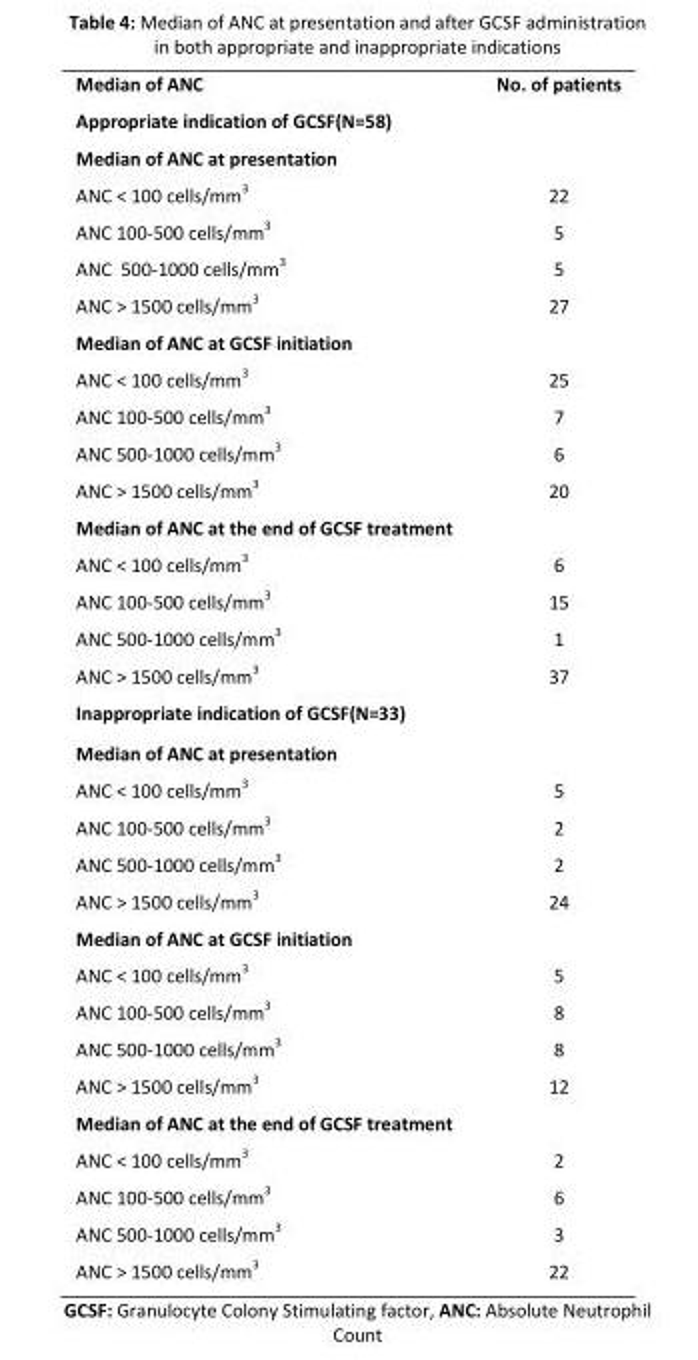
<table><tbody><tr><td>Median of ANC</td><td>No. of patients</td></tr><tr><td colspan="2">Appropriate indication of GCSF(N=58)</td></tr><tr><td colspan="2">Median of ANC at presentation</td></tr><tr><td>ANC &lt; 100 cells/mm<sup>3</sup></td><td>22</td></tr><tr><td>ANC 100-500 cells/mm<sup>3</sup></td><td>5</td></tr><tr><td>ANC 500-1000 cells/mm<sup>3</sup></td><td>5</td></tr><tr><td>ANC &gt; 1500 cells/mm<sup>3</sup></td><td>27</td></tr><tr><td colspan="2">Median of ANC at GCSF initiation</td></tr><tr><td>ANC &lt; 100 cells/mm<sup>3</sup></td><td>25</td></tr><tr><td>ANC 100-500 cells/mm<sup>3</sup></td><td>7</td></tr><tr><td>ANC 500-1000 cells/mm<sup>3</sup></td><td>6</td></tr><tr><td>ANC &gt; 1500 cells/mm<sup>3</sup></td><td>20</td></tr><tr><td colspan="2">Median of ANC at the end of GCSF treatment</td></tr><tr><td>ANC &lt; 100 cells/mm<sup>3</sup></td><td>6</td></tr><tr><td>ANC 100-500 cells/mm<sup>3</sup></td><td>15</td></tr><tr><td>ANC 500-1000 cells/mm<sup>3</sup></td><td>1</td></tr><tr><td>ANC &gt; 1500 cells/mm<sup>3</sup></td><td>37</td></tr><tr><td colspan="2">Inappropriate indication of GCSF(N=33)</td></tr><tr><td colspan="2">Median of ANC at presentation</td></tr><tr><td>ANC &lt; 100 cells/mm<sup>3</sup></td><td>5</td></tr><tr><td>ANC 100-500 cells/mm<sup>3</sup></td><td>2</td></tr><tr><td>ANC 500-1000 cells/mm<sup>3</sup></td><td>2</td></tr><tr><td>ANC &gt; 1500 cells/mm<sup>3</sup></td><td>24</td></tr><tr><td colspan="2">Median of ANC at GCSF initiation</td></tr><tr><td>ANC &lt; 100 cells/mm<sup>3</sup></td><td>5</td></tr><tr><td>ANC 100-500 cells/mm<sup>3</sup></td><td>8</td></tr><tr><td>ANC 500-1000 cells/mm<sup>3</sup></td><td>8</td></tr><tr><td>ANC &gt; 1500 cells/mm<sup>3</sup></td><td>12</td></tr><tr><td colspan="2">Median of ANC at the end of GCSF treatment</td></tr><tr><td>ANC &lt; 100 cells/mm<sup>3</sup></td><td>2</td></tr><tr><td>ANC 100-500 cells/mm<sup>3</sup></td><td>6</td></tr><tr><td>ANC 500-1000 cells/mm<sup>3</sup></td><td>3</td></tr><tr><td>ANC &gt; 1500 cells/mm<sup>3</sup></td><td>22</td></tr></tbody></table>